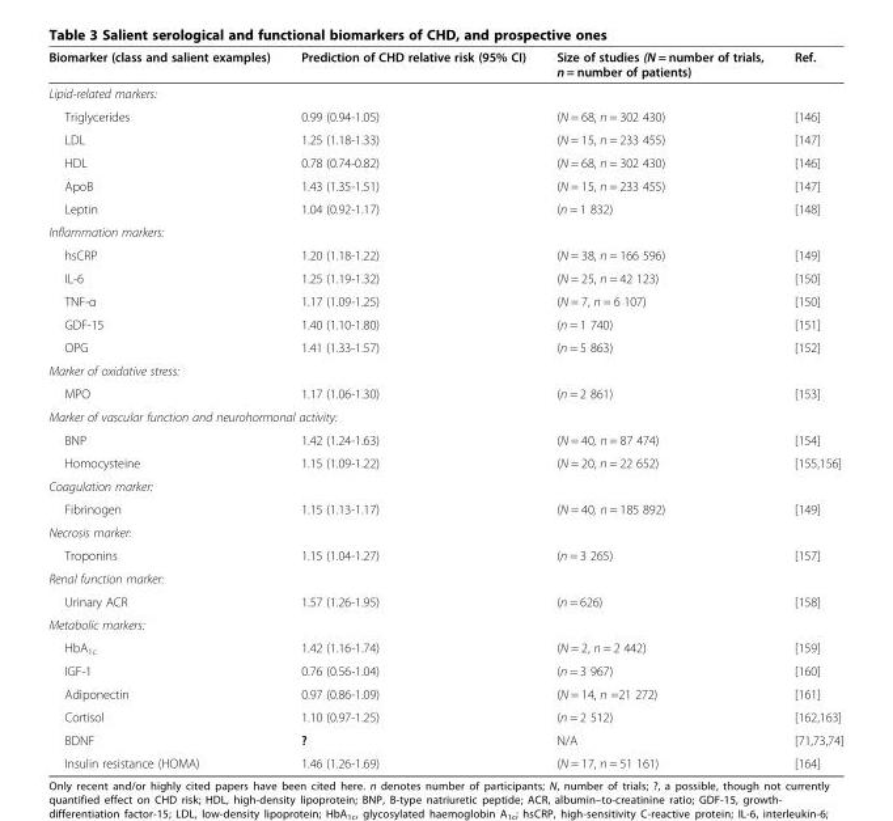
<table><thead><tr><td>Biomarker (class and salient examples)</td><td>Prediction of CHD relative risk (95% CI)</td><td>Size of studies (N = number of trials, n = number of patients)</td><td>Ref.</td></tr></thead><tbody><tr><td colspan="4">Lipid-related markers:</td></tr><tr><td>Triglycerides</td><td>0.99 (0.94-1.05)</td><td>(N = 68, n = 302 430)</td><td>[146]</td></tr><tr><td>LDL</td><td>1.25 (1.18-1.33)</td><td>(N = 15, n = 233 455)</td><td>[147]</td></tr><tr><td>HDL</td><td>0.78 (0.74-0.82)</td><td>(N = 68, n = 302 430)</td><td>[146]</td></tr><tr><td>ApoB</td><td>1.43 (1.35-1.51)</td><td>(N = 15, n = 233 455)</td><td>[147]</td></tr><tr><td>Leptin</td><td>1.04 (0.92-1.17)</td><td>(n = 1 832)</td><td>[148]</td></tr><tr><td colspan="4">Inflammation markers:</td></tr><tr><td>hsCRP</td><td>1.20 (1.18-1.22)</td><td>(N = 38, n = 166 596)</td><td>[149]</td></tr><tr><td>IL-6</td><td>1.25 (1.19-1.32)</td><td>(N = 25, n = 42 123)</td><td>[150]</td></tr><tr><td>TNF-α</td><td>1.17 (1.09-1.25)</td><td>(N = 7, n = 6 107)</td><td>[150]</td></tr><tr><td>GDF-15</td><td>1.40 (1.10-1.80)</td><td>(n = 1 740)</td><td>[151]</td></tr><tr><td>OPG</td><td>1.41 (1.33-1.57)</td><td>(n = 5 863)</td><td>[152]</td></tr><tr><td colspan="4">Marker of oxidative stress:</td></tr><tr><td>MPO</td><td>1.17 (1.06-1.30)</td><td>(n = 2 861)</td><td>[153]</td></tr><tr><td colspan="4">Marker of vascular function and neurohormonal activity:</td></tr><tr><td>BNP</td><td>1.42 (1.24-1.63)</td><td>(N = 40, n = 87 474)</td><td>[154]</td></tr><tr><td>Homocysteine</td><td>1.15 (1.09-1.22)</td><td>(N = 20, n = 22 652)</td><td>[155,156]</td></tr><tr><td colspan="4">Coagulation marker:</td></tr><tr><td>Fibrinogen</td><td>1.15 (1.13-1.17)</td><td>(N = 40, n = 185 892)</td><td>[149]</td></tr><tr><td colspan="4">Necrosis marker:</td></tr><tr><td>Troponins</td><td>1.15 (1.04-1.27)</td><td>(n = 3 265)</td><td>[157]</td></tr><tr><td colspan="4">Renal function marker:</td></tr><tr><td>Urinary ACR</td><td>1.57 (1.26-1.95)</td><td>(n = 626)</td><td>[158]</td></tr><tr><td colspan="4">Metabolic markers:</td></tr><tr><td>HbA<sub>1c</sub></td><td>1.42 (1.16-1.74)</td><td>(N = 2, n = 2 442)</td><td>[159]</td></tr><tr><td>IGF-1</td><td>0.76 (0.56-1.04)</td><td>(n = 3 967)</td><td>[160]</td></tr><tr><td>Adiponectin</td><td>0.97 (0.86-1.09)</td><td>(N = 14, n =21 272)</td><td>[161]</td></tr><tr><td>Cortisol</td><td>1.10 (0.97-1.25)</td><td>(n = 2 512)</td><td>[162,163]</td></tr><tr><td>BDNF</td><td>?</td><td>N/A</td><td>[71,73,74]</td></tr><tr><td>Insulin resistance (HOMA)</td><td>1.46 (1.26-1.69)</td><td>(N = 17, n = 51 161)</td><td>[164]</td></tr></tbody></table>